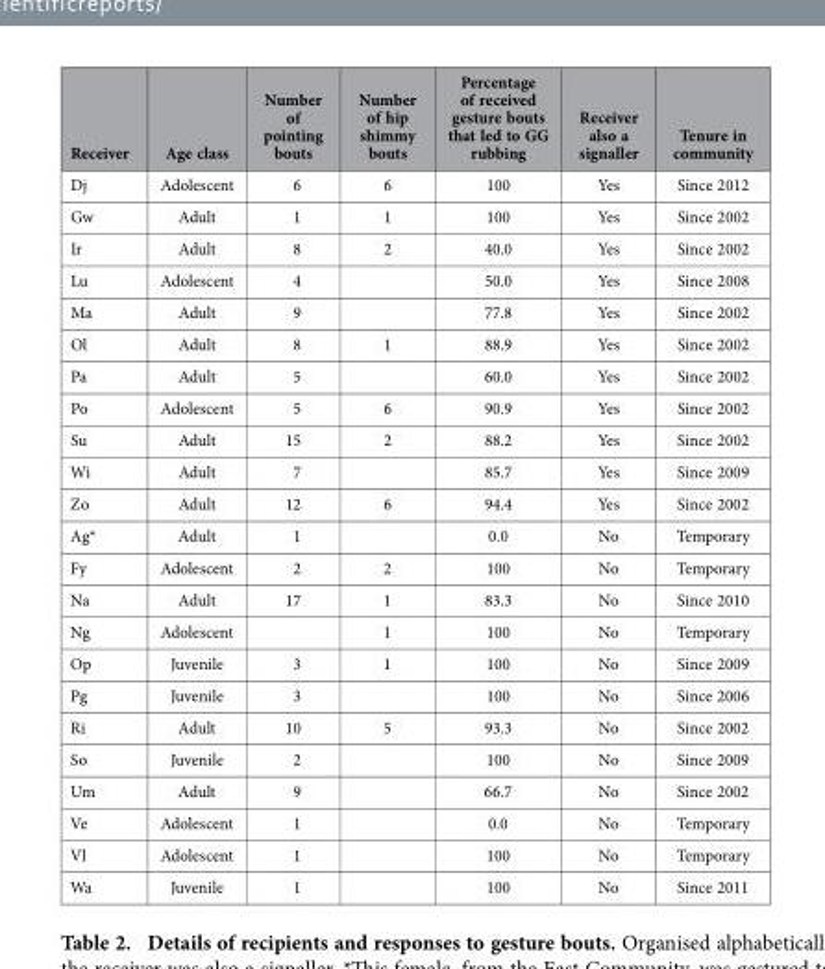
<table><thead><tr><td>Receiver</td><td>Age class</td><td>Number of pointing bouts</td><td>Number of hip shimmy bouts</td><td>Percentage of received gesture bouts that led to GG rubbing</td><td>Receiver also a signaller</td><td>Tenure in community</td></tr></thead><tbody><tr><td>Dj</td><td>Adolescent</td><td>6</td><td>6</td><td>100</td><td>Yes</td><td>Since 2012</td></tr><tr><td>Gw</td><td>Adult</td><td>1</td><td>1</td><td>100</td><td>Yes</td><td>Since 2002</td></tr><tr><td>Ir</td><td>Adult</td><td>8</td><td>2</td><td>40.0</td><td>Yes</td><td>Since 2002</td></tr><tr><td>Lu</td><td>Adolescent</td><td>4</td><td></td><td>50.0</td><td>Yes</td><td>Since 2008</td></tr><tr><td>Ma</td><td>Adult</td><td>9</td><td></td><td>77.8</td><td>Yes</td><td>Since 2002</td></tr><tr><td>Ol</td><td>Adult</td><td>8</td><td>1</td><td>88.9</td><td>Yes</td><td>Since 2002</td></tr><tr><td>Pa</td><td>Adult</td><td>5</td><td></td><td>60.0</td><td>Yes</td><td>Since 2002</td></tr><tr><td>Po</td><td>Adolescent</td><td>5</td><td>6</td><td>90.9</td><td>Yes</td><td>Since 2002</td></tr><tr><td>Su</td><td>Adult</td><td>15</td><td>2</td><td>88.2</td><td>Yes</td><td>Since 2002</td></tr><tr><td>Wi</td><td>Adult</td><td>7</td><td></td><td>85.7</td><td>Yes</td><td>Since 2009</td></tr><tr><td>Zo</td><td>Adult</td><td>12</td><td>6</td><td>94.4</td><td>Yes</td><td>Since 2002</td></tr><tr><td>Ag*</td><td>Adult</td><td>1</td><td></td><td>0.0</td><td>No</td><td>Temporary</td></tr><tr><td>Fy</td><td>Adolescent</td><td>2</td><td>2</td><td>100</td><td>No</td><td>Temporary</td></tr><tr><td>Na</td><td>Adult</td><td>17</td><td>1</td><td>83.3</td><td>No</td><td>Since 2010</td></tr><tr><td>Ng</td><td>Adolescent</td><td></td><td>1</td><td>100</td><td>No</td><td>Temporary</td></tr><tr><td>Op</td><td>Juvenile</td><td>3</td><td>1</td><td>100</td><td>No</td><td>Since 2009</td></tr><tr><td>Pg</td><td>Juvenile</td><td>3</td><td></td><td>100</td><td>No</td><td>Since 2006</td></tr><tr><td>Ri</td><td>Adult</td><td>10</td><td>5</td><td>93.3</td><td>No</td><td>Since 2002</td></tr><tr><td>So</td><td>Juvenile</td><td>2</td><td></td><td>100</td><td>No</td><td>Since 2009</td></tr><tr><td>Um</td><td>Adult</td><td>9</td><td></td><td>66.7</td><td>No</td><td>Since 2002</td></tr><tr><td>Ve</td><td>Adolescent</td><td>1</td><td></td><td>0.0</td><td>No</td><td>Temporary</td></tr><tr><td>Vl</td><td>Adolescent</td><td>1</td><td></td><td>100</td><td>No</td><td>Temporary</td></tr><tr><td>Wa</td><td>Juvenile</td><td>1</td><td></td><td>100</td><td>No</td><td>Since 2011</td></tr></tbody></table>